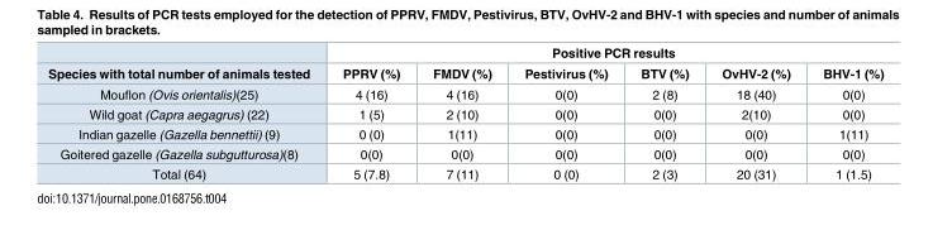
<table><thead><tr><td rowspan="2">Species with total number of animals tested</td><td colspan="6">Positive PCR results</td></tr><tr><td>PPRV (%)</td><td>FMDV (%)</td><td>Pestivirus (%)</td><td>BTV (%)</td><td>OvHV-2 (%)</td><td>BHV-1 (%)</td></tr></thead><tbody><tr><td>Mouflon (Ovis orientalis)(25)</td><td>4 (16)</td><td>4 (16)</td><td>0(0)</td><td>2 (8)</td><td>18 (40)</td><td>0(0)</td></tr><tr><td>Wild goat (Capra aegagrus) (22)</td><td>1 (5)</td><td>2 (10)</td><td>0(0)</td><td>0(0)</td><td>2(10)</td><td>0(0)</td></tr><tr><td>Indian gazelle (Gazella bennettii) (9)</td><td>0 (0)</td><td>1(11)</td><td>0(0)</td><td>0(0)</td><td>0(0)</td><td>1(11)</td></tr><tr><td>Goitered gazelle (Gazella subgutturosa)(8)</td><td>0(0)</td><td>0(0)</td><td>0(0)</td><td>0(0)</td><td>0(0)</td><td>0(0)</td></tr><tr><td>Total (64)</td><td>5 (7.8)</td><td>7 (11)</td><td>0 (0)</td><td>2 (3)</td><td>20 (31)</td><td>1 (1.5)</td></tr></tbody></table>